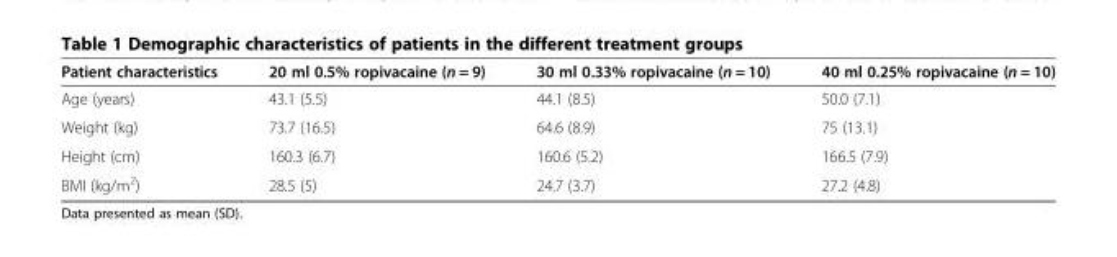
<table><thead><tr><td>Patient characteristics</td><td>20 ml 0.5% ropivacaine (n = 9)</td><td>30 ml 0.33% ropivacaine (n = 10)</td><td>40 ml 0.25% ropivacaine (n = 10)</td></tr></thead><tbody><tr><td>Age (years)</td><td>43.1 (5.5)</td><td>44.1 (8.5)</td><td>50.0 (7.1)</td></tr><tr><td>Weight (kg)</td><td>73.7 (16.5)</td><td>64.6 (8.9)</td><td>75 (13.1)</td></tr><tr><td>Height (cm)</td><td>160.3 (6.7)</td><td>160.6 (5.2)</td><td>166.5 (7.9)</td></tr><tr><td>BMI (kg/m<sup>2</sup>)</td><td>28.5 (5)</td><td>24.7 (3.7)</td><td>27.2 (4.8)</td></tr></tbody></table>